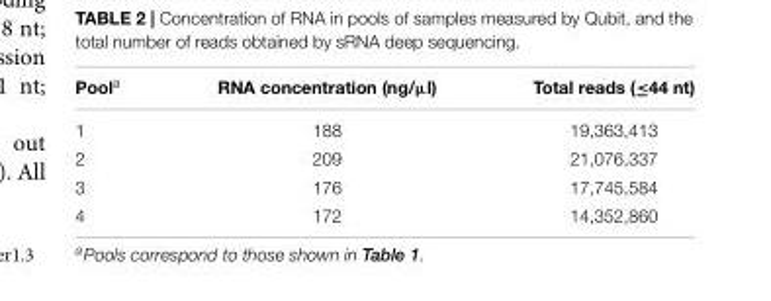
<table><thead><tr><td>Pool<sup>a</sup></td><td>RNA concentration (ng/µl)</td><td>Total reads (≤44 nt)</td></tr></thead><tbody><tr><td>1</td><td>188</td><td>19,363,413</td></tr><tr><td>2</td><td>209</td><td>21,076,337</td></tr><tr><td>3</td><td>176</td><td>17,745,584</td></tr><tr><td>4</td><td>172</td><td>14,352,860</td></tr></tbody></table>